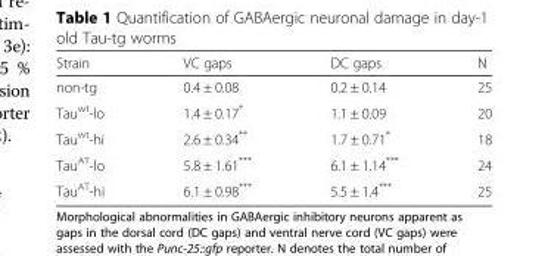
<table><thead><tr><td>Strain</td><td>VC gaps</td><td>DC gaps</td><td>N</td></tr></thead><tbody><tr><td>non-tg</td><td>0.4 ± 0.08</td><td>0.2 ± 0.14</td><td>25</td></tr><tr><td>Tau<sup>wt</sup>-lo</td><td>1.4 ± 0.17*</td><td>1.1 ± 0.09</td><td>20</td></tr><tr><td>Tau<sup>wt</sup>-hi</td><td>2.6 ± 0.34**</td><td>1.7 ± 0.71*</td><td>18</td></tr><tr><td>Tau<sup>AT</sup>-lo</td><td>5.8 ± 1.61***</td><td>6.1 ± 1.14***</td><td>24</td></tr><tr><td>Tau<sup>AT</sup>-hi</td><td>6.1 ± 0.98***</td><td>5.5 ± 1.4***</td><td>25</td></tr></tbody></table>